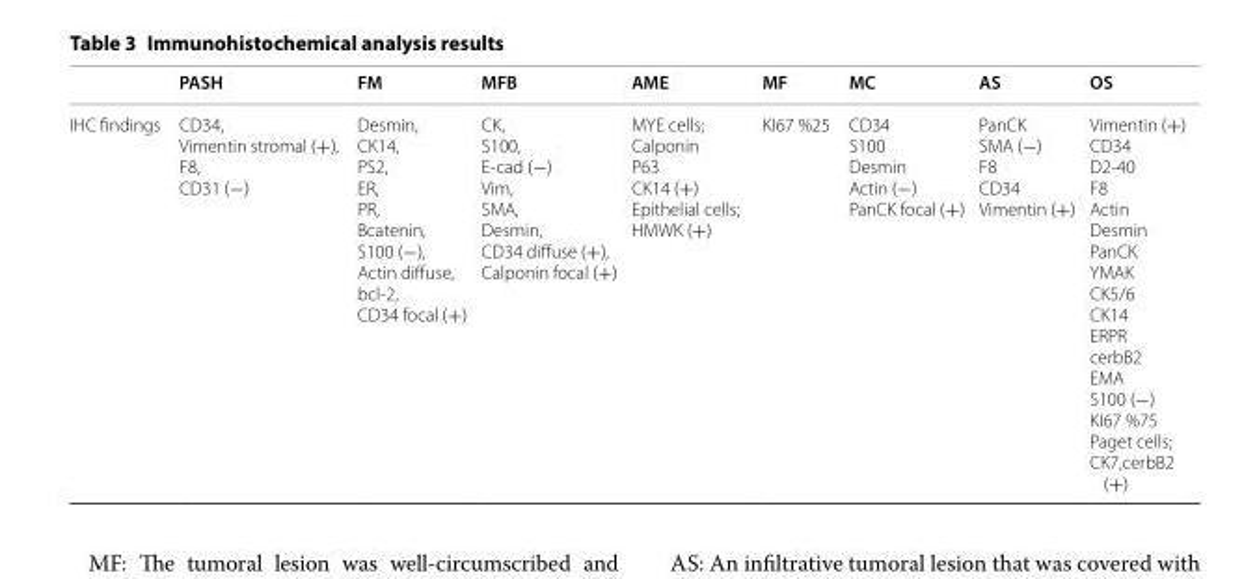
<table><thead><tr><td></td><td>PASH</td><td>FM</td><td>MFB</td><td>AME</td><td>MF</td><td>MC</td><td>AS</td><td>OS</td></tr></thead><tbody><tr><td>IHC findings</td><td>CD34, Vimentin stromal (+), F8, CD31 (−)</td><td>Desmin, CK14, PS2, ER, PR, Bcatenin, S100 (−), Actin diffuse, bcl-2, CD34 focal (+)</td><td>CK, S100, E-cad (−) Vim, SMA, Desmin, CD34 diffuse (+), Calponin focal (+)</td><td>MYE cells; Calponin P63 CK14 (+) Epithelial cells; HMWK (+)</td><td>KI67 %25</td><td>CD34 S100 Desmin Actin (−) PanCK focal (+)</td><td>PanCK SMA (−) F8 CD34 Vimentin (+)</td><td>Vimentin (+) CD34 D2-40 F8 Actin Desmin PanCK YMAK CK5/6 CK14 ERPR cerbB2 EMA S100 (−) KI67 %75 Paget cells; CK7,cerbB2 (+)</td></tr></tbody></table>